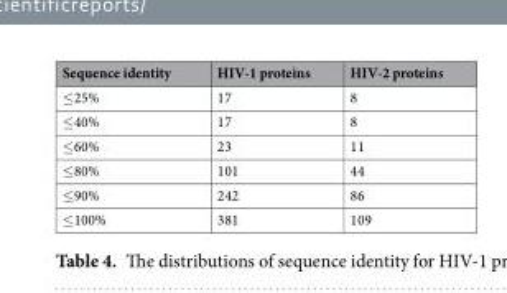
<table><thead><tr><td>Sequence identity</td><td>HIV-1 proteins</td><td>HIV-2 proteins</td></tr></thead><tbody><tr><td>≤25%</td><td>17</td><td>8</td></tr><tr><td>≤40%</td><td>17</td><td>8</td></tr><tr><td>≤60%</td><td>23</td><td>11</td></tr><tr><td>≤80%</td><td>101</td><td>44</td></tr><tr><td>≤90%</td><td>242</td><td>86</td></tr><tr><td>≤100%</td><td>381</td><td>109</td></tr></tbody></table>